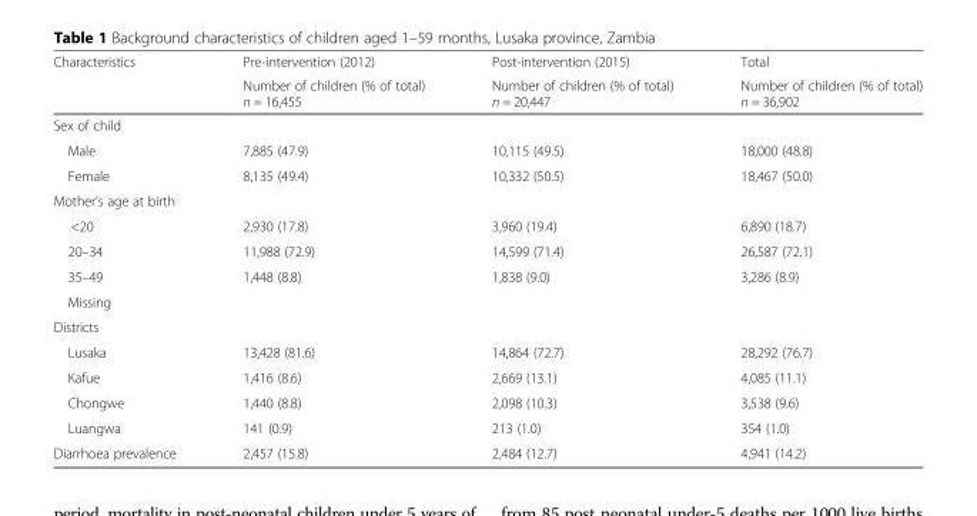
<table><thead><tr><td rowspan="2">Characteristics</td><td rowspan="2">Pre-intervention (2012) Number of children (% of total) n = 16,455</td><td rowspan="2">Post-intervention (2015) Number of children (% of total) n = 20,447</td><td rowspan="2">Total Number of children (% of total) n = 36,902</td></tr><tr></tr></thead><tbody><tr><td colspan="4">Sex of child</td></tr><tr><td>Male</td><td>7,885 (47.9)</td><td>10,115 (49.5)</td><td>18,000 (48.8)</td></tr><tr><td>Female</td><td>8,135 (49.4)</td><td>10,332 (50.5)</td><td>18,467 (50.0)</td></tr><tr><td colspan="4">Mother’s age at birth</td></tr><tr><td>&lt;20</td><td>2,930 (17.8)</td><td>3,960 (19.4)</td><td>6,890 (18.7)</td></tr><tr><td>20–34</td><td>11,988 (72.9)</td><td>14,599 (71.4)</td><td>26,587 (72.1)</td></tr><tr><td>35–49</td><td>1,448 (8.8)</td><td>1,838 (9.0)</td><td>3,286 (8.9)</td></tr><tr><td colspan="4">Missing</td></tr><tr><td colspan="4">Districts</td></tr><tr><td>Lusaka</td><td>13,428 (81.6)</td><td>14,864 (72.7)</td><td>28,292 (76.7)</td></tr><tr><td>Kafue</td><td>1,416 (8.6)</td><td>2,669 (13.1)</td><td>4,085 (11.1)</td></tr><tr><td>Chongwe</td><td>1,440 (8.8)</td><td>2,098 (10.3)</td><td>3,538 (9.6)</td></tr><tr><td>Luangwa</td><td>141 (0.9)</td><td>213 (1.0)</td><td>354 (1.0)</td></tr><tr><td>Diarrhoea prevalence</td><td>2,457 (15.8)</td><td>2,484 (12.7)</td><td>4,941 (14.2)</td></tr></tbody></table>